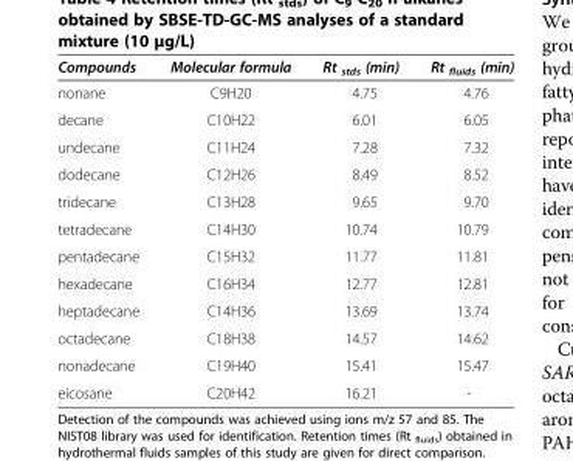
<table><thead><tr><td>Compounds</td><td>Molecular formula</td><td>Rt <sub>stds</sub> (min)</td><td>Rt <sub>fluids</sub> (min)</td></tr></thead><tbody><tr><td>nonane</td><td>C9H20</td><td>4.75</td><td>4.76</td></tr><tr><td>decane</td><td>C10H22</td><td>6.01</td><td>6.05</td></tr><tr><td>undecane</td><td>C11H24</td><td>7.28</td><td>7.32</td></tr><tr><td>dodecane</td><td>C12H26</td><td>8.49</td><td>8.52</td></tr><tr><td>tridecane</td><td>C13H28</td><td>9.65</td><td>9.70</td></tr><tr><td>tetradecane</td><td>C14H30</td><td>10.74</td><td>10.79</td></tr><tr><td>pentadecane</td><td>C15H32</td><td>11.77</td><td>11.81</td></tr><tr><td>hexadecane</td><td>C16H34</td><td>12.77</td><td>12.81</td></tr><tr><td>heptadecane</td><td>C14H36</td><td>13.69</td><td>13.74</td></tr><tr><td>octadecane</td><td>C18H38</td><td>14.57</td><td>14.62</td></tr><tr><td>nonadecane</td><td>C19H40</td><td>15.41</td><td>15.47</td></tr><tr><td>eicosane</td><td>C20H42</td><td>16.21</td><td>-</td></tr></tbody></table>